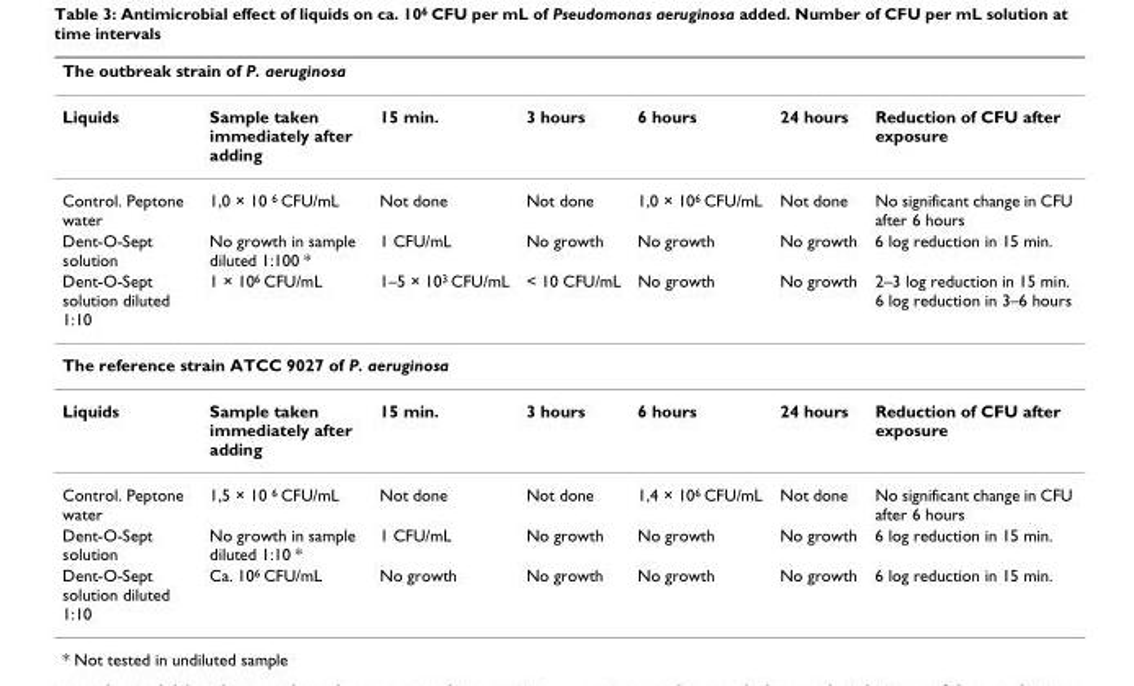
<table><thead><tr><td colspan="7">The outbreak strain of P. aeruginosa</td></tr><tr><td>Liquids</td><td>Sample taken immediately after adding</td><td>15 min.</td><td>3 hours</td><td>6 hours</td><td>24 hours</td><td>Reduction of CFU after exposure</td></tr></thead><tbody><tr><td>Control. Peptone water</td><td>1,0 × 10 <sup>6</sup> CFU/mL</td><td>Not done</td><td>Not done</td><td>1,0 × 10<sup>6</sup> CFU/mL</td><td>Not done</td><td>No significant change in CFU after 6 hours</td></tr><tr><td>Dent-O-Sept solution</td><td>No growth in sample diluted 1:100 *</td><td>1 CFU/mL</td><td>No growth</td><td>No growth</td><td>No growth</td><td>6 log reduction in 15 min.</td></tr><tr><td>Dent-O-Sept solution diluted 1:10</td><td>1 × 10<sup>6</sup> CFU/mL</td><td>1–5 × 10<sup>3</sup> CFU/mL</td><td>&lt; 10 CFU/mL</td><td>No growth</td><td>No growth</td><td>2–3 log reduction in 15 min. 6 log reduction in 3–6 hours</td></tr><tr><td colspan="7">The reference strain ATCC 9027 of P. aeruginosa</td></tr><tr><td>Liquids</td><td>Sample taken immediately after adding</td><td>15 min.</td><td>3 hours</td><td>6 hours</td><td>24 hours</td><td>Reduction of CFU after exposure</td></tr><tr><td>Control. Peptone water</td><td>1,5 × 10 <sup>6</sup> CFU/mL</td><td>Not done</td><td>Not done</td><td>1,4 × 10<sup>6</sup> CFU/mL</td><td>Not done</td><td>No significant change in CFU after 6 hours</td></tr><tr><td>Dent-O-Sept solution</td><td>No growth in sample diluted 1:10 *</td><td>1 CFU/mL</td><td>No growth</td><td>No growth</td><td>No growth</td><td>6 log reduction in 15 min.</td></tr><tr><td>Dent-O-Sept solution diluted 1:10</td><td>Ca. 10<sup>6</sup> CFU/mL</td><td>No growth</td><td>No growth</td><td>No growth</td><td>No growth</td><td>6 log reduction in 15 min.</td></tr></tbody></table>